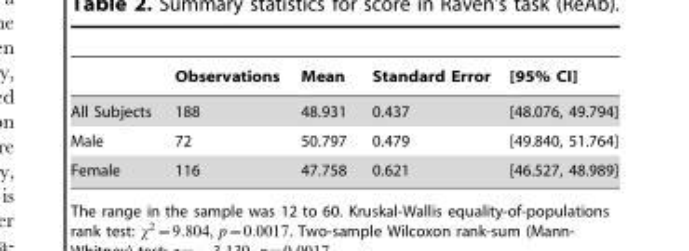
<table><thead><tr><td></td><td>Observations</td><td>Mean</td><td>Standard Error</td><td>[95% CI]</td></tr></thead><tbody><tr><td>All Subjects</td><td>188</td><td>48.931</td><td>0.437</td><td>[48.076, 49.794]</td></tr><tr><td>Male</td><td>72</td><td>50.797</td><td>0.479</td><td>[49.840, 51.764]</td></tr><tr><td>Female</td><td>116</td><td>47.758</td><td>0.621</td><td>[46.527, 48.989]</td></tr></tbody></table>